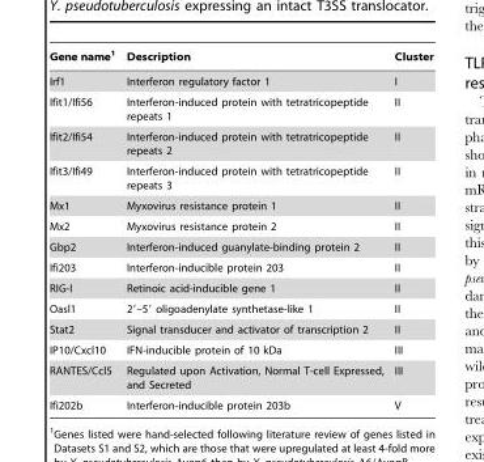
<table><thead><tr><td>Gene name<sup>1</sup></td><td>Description</td><td>Cluster</td></tr></thead><tbody><tr><td>Irf1</td><td>Interferon regulatory factor 1</td><td>I</td></tr><tr><td>Ifit1/Ifi56</td><td>Interferon-induced protein with tetratricopeptide repeats 1</td><td>II</td></tr><tr><td>Ifit2/Ifi54</td><td>Interferon-induced protein with tetratricopeptide repeats 2</td><td>II</td></tr><tr><td>Ifit3/Ifi49</td><td>Interferon-induced protein with tetratricopeptide repeats 3</td><td>II</td></tr><tr><td>Mx1</td><td>Myxovirus resistance protein 1</td><td>II</td></tr><tr><td>Mx2</td><td>Myxovirus resistance protein 2</td><td>II</td></tr><tr><td>Gbp2</td><td>Interferon-induced guanylate-binding protein 2</td><td>II</td></tr><tr><td>Ifi203</td><td>Interferon-inducible protein 203</td><td>II</td></tr><tr><td>RIG-I</td><td>Retinoic acid-inducible gene 1</td><td>II</td></tr><tr><td>Oasl1</td><td>2′–5′ oligoadenylate synthetase-like 1</td><td>II</td></tr><tr><td>Stat2</td><td>Signal transducer and activator of transcription 2</td><td>II</td></tr><tr><td>IP10/Cxcl10</td><td>IFN-inducible protein of 10 kDa</td><td>III</td></tr><tr><td>RANTES/Ccl5</td><td>Regulated upon Activation, Normal T-cell Expressed, and Secreted</td><td>III</td></tr><tr><td>Ifi202b</td><td>Interferon-inducible protein 203b</td><td>V</td></tr></tbody></table>